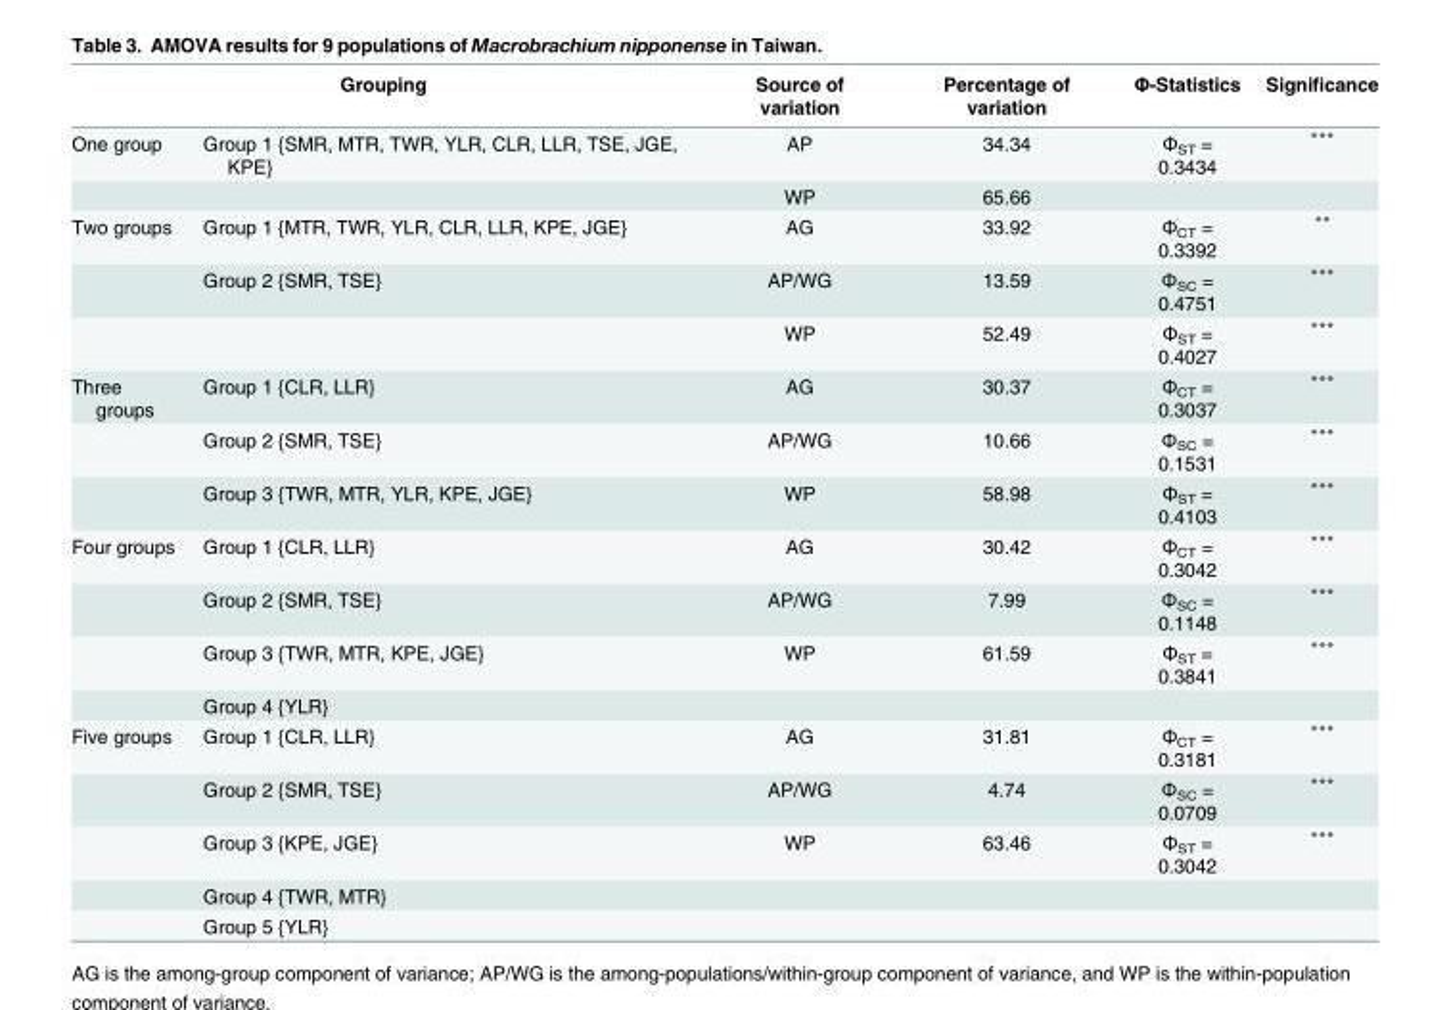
<table><thead><tr><td colspan="2">Grouping</td><td rowspan="2">Source of variation AP</td><td rowspan="2">Percentage of variation 34.34</td><td rowspan="2">Φ-Statistics Φ<sub>ST</sub> = 0.3434</td><td rowspan="2">Significance ***</td></tr><tr><td>One group</td><td>Group 1 {SMR, MTR, TWR, YLR, CLR, LLR, TSE, JGE, KPE}</td></tr></thead><tbody><tr><td></td><td></td><td>WP</td><td>65.66</td><td></td><td></td></tr><tr><td rowspan="3">Two groups</td><td>Group 1 {MTR, TWR, YLR, CLR, LLR, KPE, JGE}</td><td>AG</td><td>33.92</td><td>Φ<sub>CT</sub> = 0.3392</td><td>**</td></tr><tr><td>Group 2 {SMR, TSE}</td><td>AP/WG</td><td>13.59</td><td>Φ<sub>SC</sub> = 0.4751</td><td>***</td></tr><tr><td></td><td>WP</td><td>52.49</td><td>Φ<sub>ST</sub> = 0.4027</td><td>***</td></tr><tr><td rowspan="3">Three groups</td><td>Group 1 {CLR, LLR}</td><td>AG</td><td>30.37</td><td>Φ<sub>CT</sub> = 0.3037</td><td>***</td></tr><tr><td>Group 2 {SMR, TSE}</td><td>AP/WG</td><td>10.66</td><td>Φ<sub>SC</sub> = 0.1531</td><td>***</td></tr><tr><td>Group 3 {TWR, MTR, YLR, KPE, JGE}</td><td>WP</td><td>58.98</td><td>Φ<sub>ST</sub> = 0.4103</td><td>***</td></tr><tr><td rowspan="4">Four groups</td><td>Group 1 {CLR, LLR}</td><td>AG</td><td>30.42</td><td>Φ<sub>CT</sub> = 0.3042</td><td>***</td></tr><tr><td>Group 2 {SMR, TSE}</td><td>AP/WG</td><td>7.99</td><td>Φ<sub>SC</sub> = 0.1148</td><td>***</td></tr><tr><td>Group 3 {TWR, MTR, KPE, JGE}</td><td>WP</td><td>61.59</td><td>Φ<sub>ST</sub> = 0.3841</td><td>***</td></tr><tr><td>Group 4 {YLR}</td><td></td><td></td><td></td><td></td></tr><tr><td rowspan="5">Five groups</td><td>Group 1 {CLR, LLR}</td><td>AG</td><td>31.81</td><td>Φ<sub>CT</sub> = 0.3181</td><td>***</td></tr><tr><td>Group 2 {SMR, TSE}</td><td>AP/WG</td><td>4.74</td><td>Φ<sub>SC</sub> = 0.0709</td><td>***</td></tr><tr><td>Group 3 {KPE, JGE}</td><td>WP</td><td>63.46</td><td>Φ<sub>ST</sub> = 0.3042</td><td>***</td></tr><tr><td>Group 4 {TWR, MTR}</td><td></td><td></td><td></td><td></td></tr><tr><td>Group 5 {YLR}</td><td></td><td></td><td></td><td></td></tr></tbody></table>